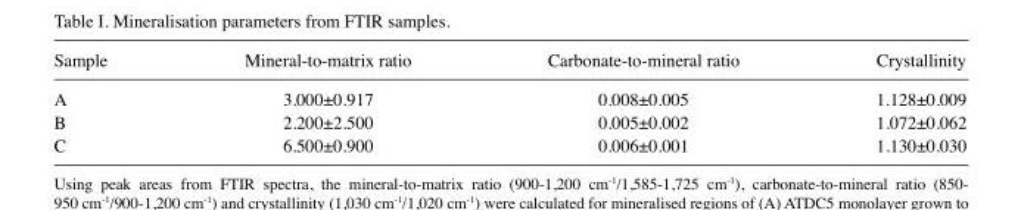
<table><thead><tr><td>Sample</td><td>Mineral-to-matrix ratio</td><td>Carbonate-to-mineral ratio</td><td>Crystallinity</td></tr></thead><tbody><tr><td>A</td><td>3.000±0.917</td><td>0.008±0.005</td><td>1.128±0.009</td></tr><tr><td>B</td><td>2.200±2.500</td><td>0.005±0.002</td><td>1.072±0.062</td></tr><tr><td>C</td><td>6.500±0.900</td><td>0.006±0.001</td><td>1.130±0.030</td></tr></tbody></table>